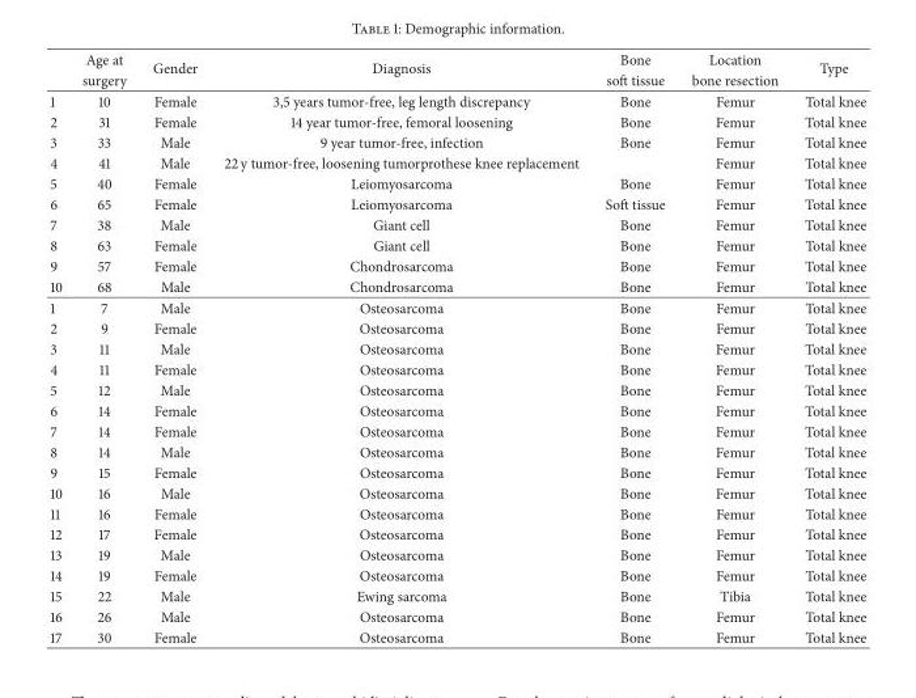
<table><thead><tr><td rowspan="2"></td><td rowspan="2">Age at surgery</td><td rowspan="2">Gender</td><td rowspan="2">Diagnosis</td><td rowspan="2">Bone soft tissue</td><td rowspan="2">Location bone resection</td><td rowspan="2">Type</td></tr><tr></tr></thead><tbody><tr><td>1</td><td>10</td><td>Female</td><td>3,5 years tumor-free, leg length discrepancy</td><td>Bone</td><td>Femur</td><td>Total knee</td></tr><tr><td>2</td><td>31</td><td>Female</td><td>14 year tumor-free, femoral loosening</td><td>Bone</td><td>Femur</td><td>Total knee</td></tr><tr><td>3</td><td>33</td><td>Male</td><td>9 year tumor-free, infection</td><td>Bone</td><td>Femur</td><td>Total knee</td></tr><tr><td>4</td><td>41</td><td>Male</td><td>22 y tumor-free, loosening tumorprothese knee replacement</td><td></td><td>Femur</td><td>Total knee</td></tr><tr><td>5</td><td>40</td><td>Female</td><td>Leiomyosarcoma</td><td>Bone</td><td>Femur</td><td>Total knee</td></tr><tr><td>6</td><td>65</td><td>Female</td><td>Leiomyosarcoma</td><td>Soft tissue</td><td>Femur</td><td>Total knee</td></tr><tr><td>7</td><td>38</td><td>Male</td><td>Giant cell</td><td>Bone</td><td>Femur</td><td>Total knee</td></tr><tr><td>8</td><td>63</td><td>Female</td><td>Giant cell</td><td>Bone</td><td>Femur</td><td>Total knee</td></tr><tr><td>9</td><td>57</td><td>Female</td><td>Chondrosarcoma</td><td>Bone</td><td>Femur</td><td>Total knee</td></tr><tr><td>10</td><td>68</td><td>Male</td><td>Chondrosarcoma</td><td>Bone</td><td>Femur</td><td>Total knee</td></tr><tr><td>1</td><td>7</td><td>Male</td><td>Osteosarcoma</td><td>Bone</td><td>Femur</td><td>Total knee</td></tr><tr><td>2</td><td>9</td><td>Female</td><td>Osteosarcoma</td><td>Bone</td><td>Femur</td><td>Total knee</td></tr><tr><td>3</td><td>11</td><td>Male</td><td>Osteosarcoma</td><td>Bone</td><td>Femur</td><td>Total knee</td></tr><tr><td>4</td><td>11</td><td>Female</td><td>Osteosarcoma</td><td>Bone</td><td>Femur</td><td>Total knee</td></tr><tr><td>5</td><td>12</td><td>Male</td><td>Osteosarcoma</td><td>Bone</td><td>Femur</td><td>Total knee</td></tr><tr><td>6</td><td>14</td><td>Female</td><td>Osteosarcoma</td><td>Bone</td><td>Femur</td><td>Total knee</td></tr><tr><td>7</td><td>14</td><td>Female</td><td>Osteosarcoma</td><td>Bone</td><td>Femur</td><td>Total knee</td></tr><tr><td>8</td><td>14</td><td>Male</td><td>Osteosarcoma</td><td>Bone</td><td>Femur</td><td>Total knee</td></tr><tr><td>9</td><td>15</td><td>Female</td><td>Osteosarcoma</td><td>Bone</td><td>Femur</td><td>Total knee</td></tr><tr><td>10</td><td>16</td><td>Male</td><td>Osteosarcoma</td><td>Bone</td><td>Femur</td><td>Total knee</td></tr><tr><td>11</td><td>16</td><td>Female</td><td>Osteosarcoma</td><td>Bone</td><td>Femur</td><td>Total knee</td></tr><tr><td>12</td><td>17</td><td>Female</td><td>Osteosarcoma</td><td>Bone</td><td>Femur</td><td>Total knee</td></tr><tr><td>13</td><td>19</td><td>Male</td><td>Osteosarcoma</td><td>Bone</td><td>Femur</td><td>Total knee</td></tr><tr><td>14</td><td>19</td><td>Female</td><td>Osteosarcoma</td><td>Bone</td><td>Femur</td><td>Total knee</td></tr><tr><td>15</td><td>22</td><td>Male</td><td>Ewing sarcoma</td><td>Bone</td><td>Tibia</td><td>Total knee</td></tr><tr><td>16</td><td>26</td><td>Male</td><td>Osteosarcoma</td><td>Bone</td><td>Femur</td><td>Total knee</td></tr><tr><td>17</td><td>30</td><td>Female</td><td>Osteosarcoma</td><td>Bone</td><td>Femur</td><td>Total knee</td></tr></tbody></table>